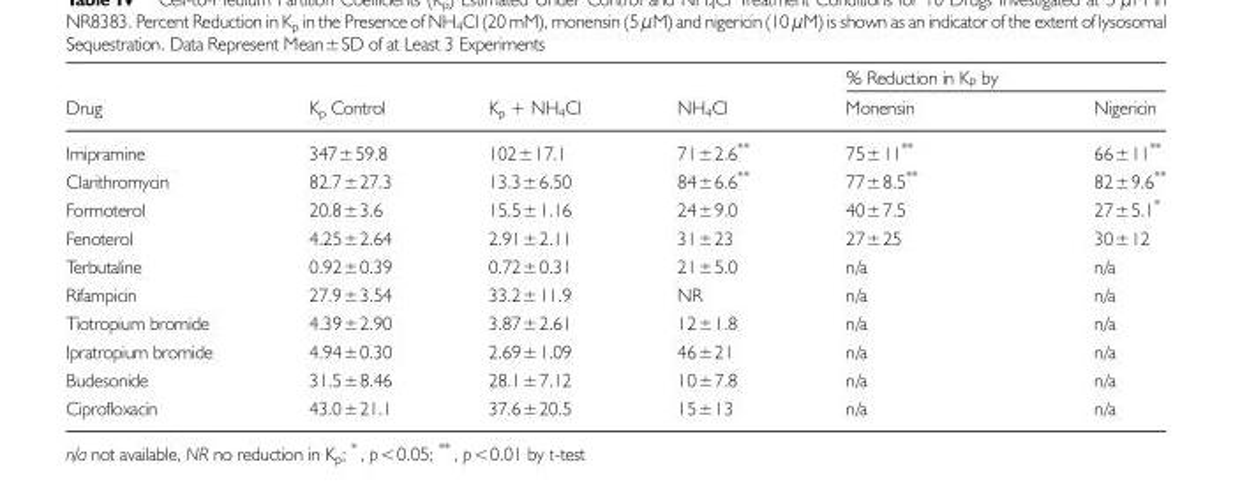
<table><thead><tr><td rowspan="2">Drug</td><td rowspan="2">K<sub>p</sub> Control</td><td rowspan="2">K<sub>p</sub> + NH<sub>4</sub>Cl</td><td rowspan="2">NH<sub>4</sub>Cl</td><td rowspan="2">% Reduction in K<sub>p</sub> by Monensin</td><td rowspan="2">Nigericin</td></tr><tr></tr></thead><tbody><tr><td>Imipramine</td><td>347±59.8</td><td>102±17.1</td><td>71±2.6**</td><td>75±11**</td><td>66±11**</td></tr><tr><td>Clarithromycin</td><td>82.7±27.3</td><td>13.3±6.50</td><td>84±6.6**</td><td>77±8.5**</td><td>82±9.6**</td></tr><tr><td>Formoterol</td><td>20.8±3.6</td><td>15.5±1.16</td><td>24±9.0</td><td>40±7.5</td><td>27±5.1*</td></tr><tr><td>Fenoterol</td><td>4.25±2.64</td><td>2.91±2.11</td><td>31±23</td><td>27±25</td><td>30±12</td></tr><tr><td>Terbutaline</td><td>0.92±0.39</td><td>0.72±0.31</td><td>21±5.0</td><td>n/a</td><td>n/a</td></tr><tr><td>Rifampicin</td><td>27.9±3.54</td><td>33.2±11.9</td><td>NR</td><td>n/a</td><td>n/a</td></tr><tr><td>Tiotropium bromide</td><td>4.39±2.90</td><td>3.87±2.61</td><td>12±1.8</td><td>n/a</td><td>n/a</td></tr><tr><td>Ipratropium bromide</td><td>4.94±0.30</td><td>2.69±1.09</td><td>46±21</td><td>n/a</td><td>n/a</td></tr><tr><td>Budesonide</td><td>31.5±8.46</td><td>28.1±7.12</td><td>10±7.8</td><td>n/a</td><td>n/a</td></tr><tr><td>Ciprofloxacin</td><td>43.0±21.1</td><td>37.6±20.5</td><td>15±13</td><td>n/a</td><td>n/a</td></tr></tbody></table>